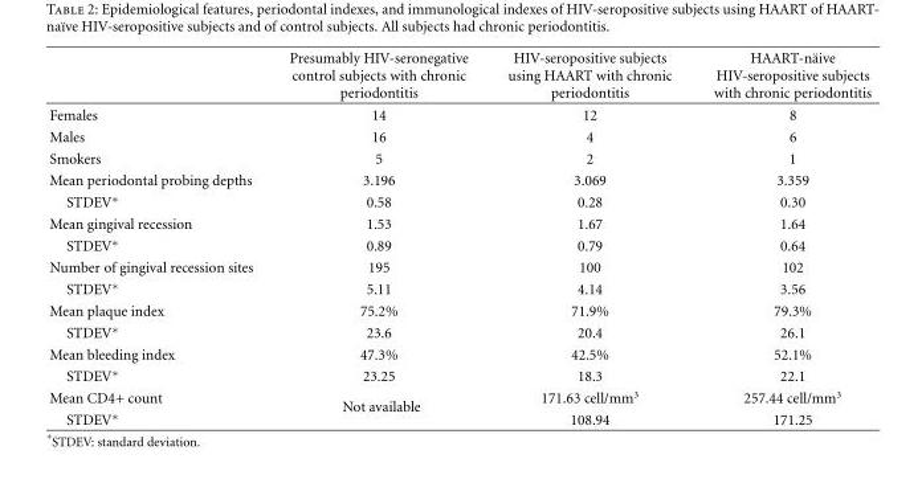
<table><thead><tr><td></td><td>Presumably HIV-seronegative control subjects with chronic periodontitis</td><td>HIV-seropositive subjects using HAART with chronic periodontitis</td><td>HAART-n¨aive HIV-seropositive subjects with chronic periodontitis</td></tr></thead><tbody><tr><td>Females</td><td>14</td><td>12</td><td>8</td></tr><tr><td>Males</td><td>16</td><td>4</td><td>6</td></tr><tr><td>Smokers</td><td>5</td><td>2</td><td>1</td></tr><tr><td>Mean periodontal probing depths</td><td>3.196</td><td>3.069</td><td>3.359</td></tr><tr><td>STDEV∗</td><td>0.58</td><td>0.28</td><td>0.30</td></tr><tr><td>Mean gingival recession</td><td>1.53</td><td>1.67</td><td>1.64</td></tr><tr><td>STDEV∗</td><td>0.89</td><td>0.79</td><td>0.64</td></tr><tr><td>Number of gingival recession sites</td><td>195</td><td>100</td><td>102</td></tr><tr><td>STDEV∗</td><td>5.11</td><td>4.14</td><td>3.56</td></tr><tr><td>Mean plaque index</td><td>75.2%</td><td>71.9%</td><td>79.3%</td></tr><tr><td>STDEV∗</td><td>23.6</td><td>20.4</td><td>26.1</td></tr><tr><td>Mean bleeding index</td><td>47.3%</td><td>42.5%</td><td>52.1%</td></tr><tr><td>STDEV∗</td><td>23.25</td><td>18.3</td><td>22.1</td></tr><tr><td>Mean CD4+ count</td><td rowspan="2">Not available</td><td>171.63 cell/mm<sup>3</sup></td><td>257.44 cell/mm<sup>3</sup></td></tr><tr><td>STDEV∗</td><td>108.94</td><td>171.25</td></tr></tbody></table>